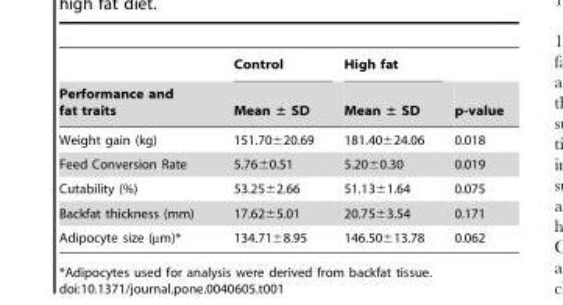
<table><thead><tr><td rowspan="2">Performance and fat traits</td><td rowspan="2">Control Mean ± SD</td><td rowspan="2">High fat Mean ± SD</td><td rowspan="2">p-value</td></tr><tr></tr></thead><tbody><tr><td>Weight gain (kg)</td><td>151.70±20.69</td><td>181.40±24.06</td><td>0.018</td></tr><tr><td>Feed Conversion Rate</td><td>5.76±0.51</td><td>5.20±0.30</td><td>0.019</td></tr><tr><td>Cutability (%)</td><td>53.25±2.66</td><td>51.13±1.64</td><td>0.075</td></tr><tr><td>Backfat thickness (mm)</td><td>17.62±5.01</td><td>20.75±3.54</td><td>0.171</td></tr><tr><td>Adipocyte size (µm)*</td><td>134.71±8.95</td><td>146.50±13.78</td><td>0.062</td></tr></tbody></table>